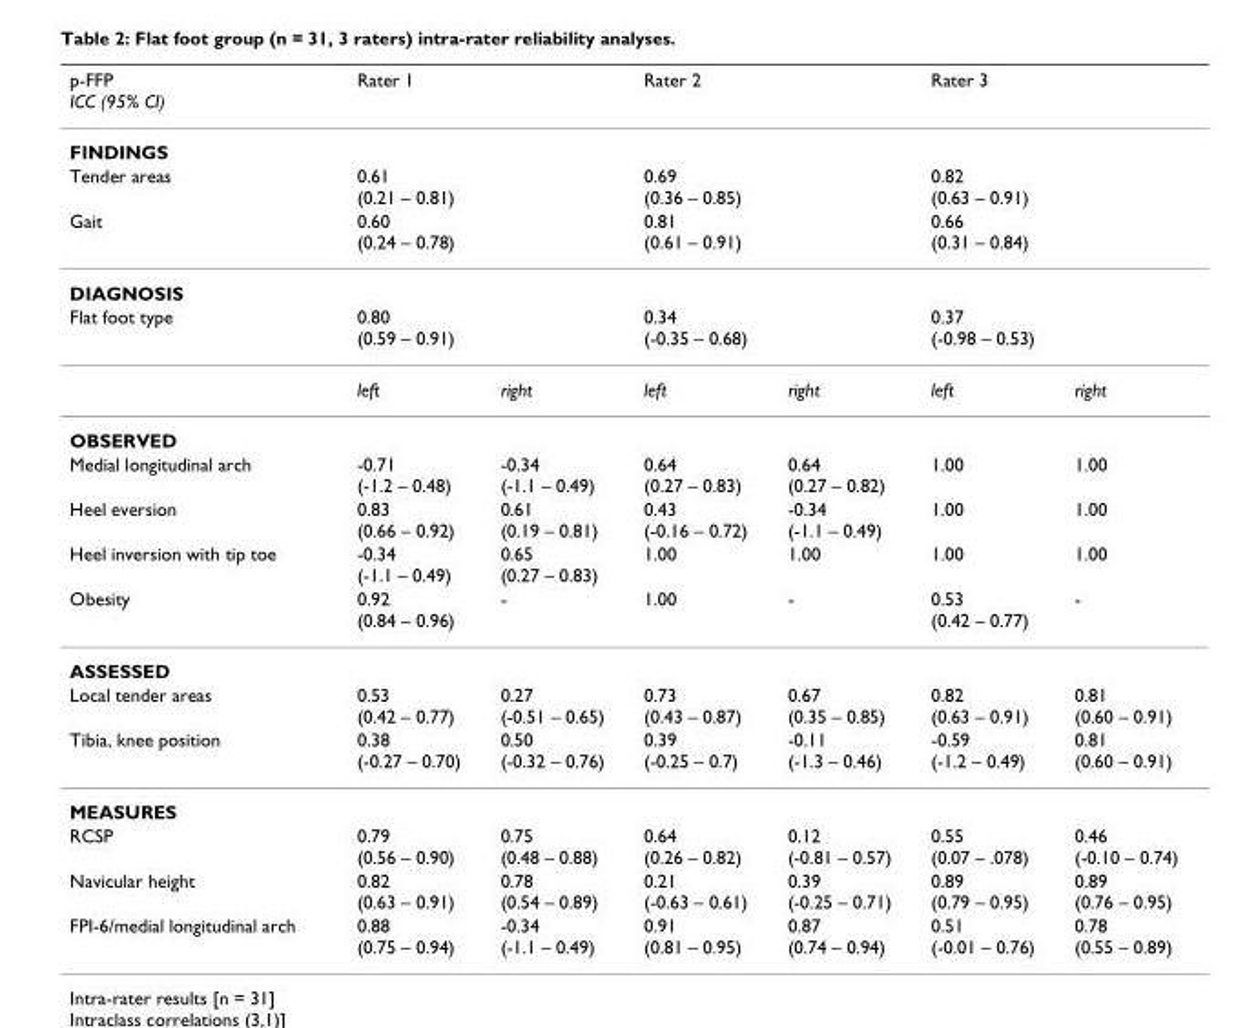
<table><thead><tr><td>p-FFP ICC (95% CI)</td><td colspan="2">Rater 1</td><td colspan="2">Rater 2</td><td colspan="2">Rater 3</td></tr></thead><tbody><tr><td colspan="7">FINDINGS</td></tr><tr><td>Tender areas</td><td colspan="2">0.61 (0.21 – 0.81)</td><td colspan="2">0.69 (0.36 – 0.85)</td><td colspan="2">0.82 (0.63 – 0.91)</td></tr><tr><td>Gait</td><td colspan="2">0.60 (0.24 – 0.78)</td><td colspan="2">0.81 (0.61 – 0.91)</td><td colspan="2">0.66 (0.31 – 0.84)</td></tr><tr><td colspan="7">DIAGNOSIS</td></tr><tr><td rowspan="2">Flat foot type</td><td colspan="2">0.80 (0.59 – 0.91)</td><td colspan="2">0.34 (-0.35 – 0.68)</td><td colspan="2">0.37 (-0.98 – 0.53)</td></tr><tr><td>left</td><td>right</td><td>left</td><td>right</td><td>left</td><td>right</td></tr><tr><td colspan="7">OBSERVED</td></tr><tr><td>Medial longitudinal arch</td><td>-0.71 (-1.2 – 0.48)</td><td>-0.34 (-1.1 – 0.49)</td><td>0.64 (0.27 – 0.83)</td><td>0.64 (0.27 – 0.82)</td><td>1.00</td><td>1.00</td></tr><tr><td>Heel eversion</td><td>0.83 (0.66 – 0.92)</td><td>0.61 (0.19 – 0.81)</td><td>0.43 (-0.16 – 0.72)</td><td>-0.34 (-1.1 – 0.49)</td><td>1.00</td><td>1.00</td></tr><tr><td>Heel inversion with tip toe</td><td>-0.34 (-1.1 – 0.49)</td><td>0.65 (0.27 – 0.83)</td><td>1.00</td><td>1.00</td><td>1.00</td><td>1.00</td></tr><tr><td>Obesity</td><td>0.92 (0.84 – 0.96)</td><td>-</td><td>1.00</td><td>-</td><td>0.53 (0.42 – 0.77)</td><td>-</td></tr><tr><td colspan="7">ASSESSED</td></tr><tr><td>Local tender areas</td><td>0.53 (0.42 – 0.77)</td><td>0.27 (-0.51 – 0.65)</td><td>0.73 (0.43 – 0.87)</td><td>0.67 (0.35 – 0.85)</td><td>0.82 (0.63 – 0.91)</td><td>0.81 (0.60 – 0.91)</td></tr><tr><td>Tibia, knee position</td><td>0.38 (-0.27 – 0.70)</td><td>0.50 (-0.32 – 0.76)</td><td>0.39 (-0.25 – 0.7)</td><td>-0.11 (-1.3 – 0.46)</td><td>-0.59 (-1.2 – 0.49)</td><td>0.81 (0.60 – 0.91)</td></tr><tr><td colspan="7">MEASURES</td></tr><tr><td>RCSP</td><td>0.79 (0.56 – 0.90)</td><td>0.75 (0.48 – 0.88)</td><td>0.64 (0.26 – 0.82)</td><td>0.12 (-0.81 – 0.57)</td><td>0.55 (0.07 – .078)</td><td>0.46 (-0.10 – 0.74)</td></tr><tr><td>Navicular height</td><td>0.82 (0.63 – 0.91)</td><td>0.78 (0.54 – 0.89)</td><td>0.21 (-0.63 – 0.61)</td><td>0.39 (-0.25 – 0.71)</td><td>0.89 (0.79 – 0.95)</td><td>0.89 (0.76 – 0.95)</td></tr><tr><td>FPI-6/medial longitudinal arch</td><td>0.88 (0.75 – 0.94)</td><td>-0.34 (-1.1 – 0.49)</td><td>0.91 (0.81 – 0.95)</td><td>0.87 (0.74 – 0.94)</td><td>0.51 (-0.01 – 0.76)</td><td>0.78 (0.55 – 0.89)</td></tr></tbody></table>